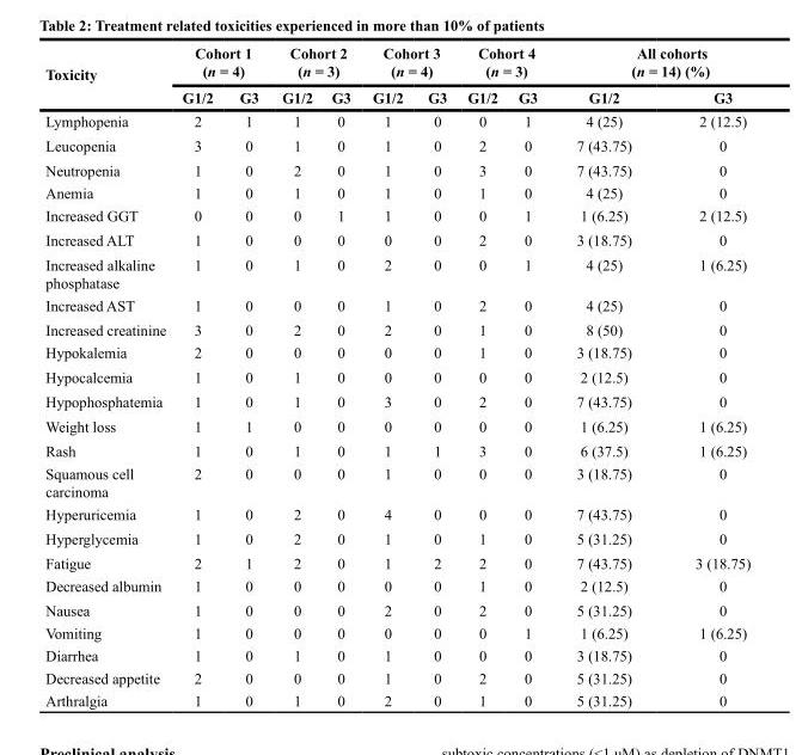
<table><thead><tr><td rowspan="2">Toxicity</td><td colspan="2">Cohort 1 (n = 4)</td><td colspan="2">Cohort 2 (n = 3)</td><td colspan="2">Cohort 3 (n = 4)</td><td colspan="2">Cohort 4 (n = 3)</td><td colspan="2">All cohorts (n = 14) (%)</td></tr><tr><td>G1/2</td><td>G3</td><td>G1/2</td><td>G3</td><td>G1/2</td><td>G3</td><td>G1/2</td><td>G3</td><td>G1/2</td><td>G3</td></tr></thead><tbody><tr><td>Lymphopenia</td><td>2</td><td>1</td><td>1</td><td>0</td><td>1</td><td>0</td><td>0</td><td>1</td><td>4 (25)</td><td>2 (12.5)</td></tr><tr><td>Leucopenia</td><td>3</td><td>0</td><td>1</td><td>0</td><td>1</td><td>0</td><td>2</td><td>0</td><td>7 (43.75)</td><td>0</td></tr><tr><td>Neutropenia</td><td>1</td><td>0</td><td>2</td><td>0</td><td>1</td><td>0</td><td>3</td><td>0</td><td>7 (43.75)</td><td>0</td></tr><tr><td>Anemia</td><td>1</td><td>0</td><td>1</td><td>0</td><td>1</td><td>0</td><td>1</td><td>0</td><td>4 (25)</td><td>0</td></tr><tr><td>Increased GGT</td><td>0</td><td>0</td><td>0</td><td>1</td><td>1</td><td>0</td><td>0</td><td>1</td><td>1 (6.25)</td><td>2 (12.5)</td></tr><tr><td>Increased ALT</td><td>1</td><td>0</td><td>0</td><td>0</td><td>0</td><td>0</td><td>2</td><td>0</td><td>3 (18.75)</td><td>0</td></tr><tr><td>Increased alkaline phosphatase</td><td>1</td><td>0</td><td>1</td><td>0</td><td>2</td><td>0</td><td>0</td><td>1</td><td>4 (25)</td><td>1 (6.25)</td></tr><tr><td>Increased AST</td><td>1</td><td>0</td><td>0</td><td>0</td><td>1</td><td>0</td><td>2</td><td>0</td><td>4 (25)</td><td>0</td></tr><tr><td>Increased creatinine</td><td>3</td><td>0</td><td>2</td><td>0</td><td>2</td><td>0</td><td>1</td><td>0</td><td>8 (50)</td><td>0</td></tr><tr><td>Hypokalemia</td><td>2</td><td>0</td><td>0</td><td>0</td><td>0</td><td>0</td><td>1</td><td>0</td><td>3 (18.75)</td><td>0</td></tr><tr><td>Hypocalcemia</td><td>1</td><td>0</td><td>1</td><td>0</td><td>0</td><td>0</td><td>0</td><td>0</td><td>2 (12.5)</td><td>0</td></tr><tr><td>Hypophosphatemia</td><td>1</td><td>0</td><td>1</td><td>0</td><td>3</td><td>0</td><td>2</td><td>0</td><td>7 (43.75)</td><td>0</td></tr><tr><td>Weight loss</td><td>1</td><td>1</td><td>0</td><td>0</td><td>0</td><td>0</td><td>0</td><td>0</td><td>1 (6.25)</td><td>1 (6.25)</td></tr><tr><td>Rash</td><td>1</td><td>0</td><td>1</td><td>0</td><td>1</td><td>1</td><td>3</td><td>0</td><td>6 (37.5)</td><td>1 (6.25)</td></tr><tr><td>Squamous cell carcinoma</td><td>2</td><td>0</td><td>0</td><td>0</td><td>1</td><td>0</td><td>0</td><td>0</td><td>3 (18.75)</td><td>0</td></tr><tr><td>Hyperuricemia</td><td>1</td><td>0</td><td>2</td><td>0</td><td>4</td><td>0</td><td>0</td><td>0</td><td>7 (43.75)</td><td>0</td></tr><tr><td>Hyperglycemia</td><td>1</td><td>0</td><td>2</td><td>0</td><td>1</td><td>0</td><td>1</td><td>0</td><td>5 (31.25)</td><td>0</td></tr><tr><td>Fatigue</td><td>2</td><td>1</td><td>2</td><td>0</td><td>1</td><td>2</td><td>2</td><td>0</td><td>7 (43.75)</td><td>3 (18.75)</td></tr><tr><td>Decreased albumin</td><td>1</td><td>0</td><td>0</td><td>0</td><td>0</td><td>0</td><td>1</td><td>0</td><td>2 (12.5)</td><td>0</td></tr><tr><td>Nausea</td><td>1</td><td>0</td><td>0</td><td>0</td><td>2</td><td>0</td><td>2</td><td>0</td><td>5 (31.25)</td><td>0</td></tr><tr><td>Vomiting</td><td>1</td><td>0</td><td>0</td><td>0</td><td>0</td><td>0</td><td>0</td><td>1</td><td>1 (6.25)</td><td>1 (6.25)</td></tr><tr><td>Diarrhea</td><td>1</td><td>0</td><td>1</td><td>0</td><td>1</td><td>0</td><td>0</td><td>0</td><td>3 (18.75)</td><td>0</td></tr><tr><td>Decreased appetite</td><td>2</td><td>0</td><td>0</td><td>0</td><td>1</td><td>0</td><td>2</td><td>0</td><td>5 (31.25)</td><td>0</td></tr><tr><td>Arthralgia</td><td>1</td><td>0</td><td>1</td><td>0</td><td>2</td><td>0</td><td>1</td><td>0</td><td>5 (31.25)</td><td>0</td></tr></tbody></table>